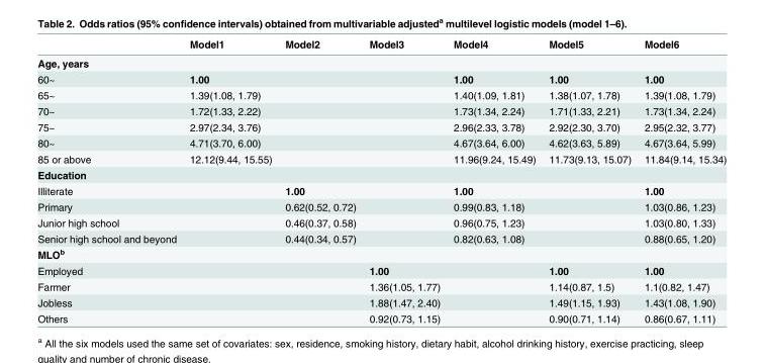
<table><thead><tr><td></td><td>Model1</td><td>Model2</td><td>Model3</td><td>Model4</td><td>Model5</td><td>Model6</td></tr></thead><tbody><tr><td colspan="7">Age, years</td></tr><tr><td>60~</td><td>1.00</td><td></td><td></td><td>1.00</td><td>1.00</td><td>1.00</td></tr><tr><td>65~</td><td>1.39(1.08, 1.79)</td><td></td><td></td><td>1.40(1.09, 1.81)</td><td>1.38(1.07, 1.78)</td><td>1.39(1.08, 1.79)</td></tr><tr><td>70~</td><td>1.72(1.33, 2.22)</td><td></td><td></td><td>1.73(1.34, 2.24)</td><td>1.71(1.33, 2.21)</td><td>1.73(1.34, 2.24)</td></tr><tr><td>75~</td><td>2.97(2.34, 3.76)</td><td></td><td></td><td>2.96(2.33, 3.78)</td><td>2.92(2.30, 3.70)</td><td>2.95(2.32, 3.77)</td></tr><tr><td>80~</td><td>4.71(3.70, 6.00)</td><td></td><td></td><td>4.67(3.64, 6.00)</td><td>4.62(3.63, 5.89)</td><td>4.67(3.64, 5.99)</td></tr><tr><td>85 or above</td><td>12.12(9.44, 15.55)</td><td></td><td></td><td>11.96(9.24, 15.49)</td><td>11.73(9.13, 15.07)</td><td>11.84(9.14, 15.34)</td></tr><tr><td colspan="7">Education</td></tr><tr><td>Illiterate</td><td></td><td>1.00</td><td></td><td>1.00</td><td></td><td>1.00</td></tr><tr><td>Primary</td><td></td><td>0.62(0.52, 0.72)</td><td></td><td>0.99(0.83, 1.18)</td><td></td><td>1.03(0.86, 1.23)</td></tr><tr><td>Junior high school</td><td></td><td>0.46(0.37, 0.58)</td><td></td><td>0.96(0.75, 1.23)</td><td></td><td>1.03(0.80, 1.33)</td></tr><tr><td>Senior high school and beyond</td><td></td><td>0.44(0.34, 0.57)</td><td></td><td>0.82(0.63, 1.08)</td><td></td><td>0.88(0.65, 1.20)</td></tr><tr><td colspan="7">MLO<sup>b</sup></td></tr><tr><td>Employed</td><td></td><td></td><td>1.00</td><td></td><td>1.00</td><td>1.00</td></tr><tr><td>Farmer</td><td></td><td></td><td>1.36(1.05, 1.77)</td><td></td><td>1.14(0.87, 1.5)</td><td>1.1(0.82, 1.47)</td></tr><tr><td>Jobless</td><td></td><td></td><td>1.88(1.47, 2.40)</td><td></td><td>1.49(1.15, 1.93)</td><td>1.43(1.08, 1.90)</td></tr><tr><td>Others</td><td></td><td></td><td>0.92(0.73, 1.15)</td><td></td><td>0.90(0.71, 1.14)</td><td>0.86(0.67, 1.11)</td></tr></tbody></table>